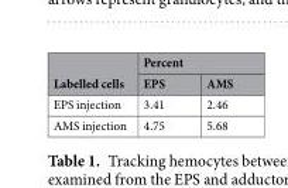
<table><thead><tr><td rowspan="2">Labelled cells</td><td colspan="2">Percent</td></tr><tr><td>EPS</td><td>AMS</td></tr></thead><tbody><tr><td>EPS injection</td><td>3.41</td><td>2.46</td></tr><tr><td>AMS injection</td><td>4.75</td><td>5.68</td></tr></tbody></table>